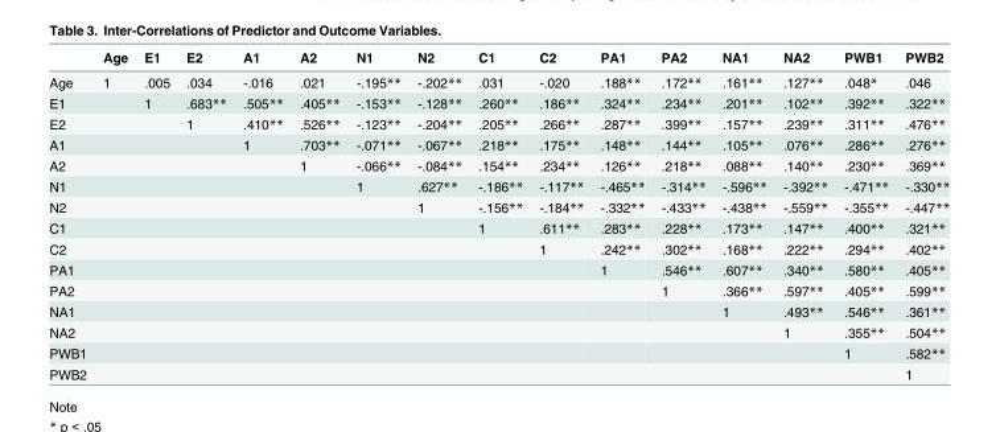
<table><thead><tr><td></td><td>Age</td><td>E1</td><td>E2</td><td>A1</td><td>A2</td><td>N1</td><td>N2</td><td>C1</td><td>C2</td><td>PA1</td><td>PA2</td><td>NA1</td><td>NA2</td><td>PWB1</td><td>PWB2</td></tr></thead><tbody><tr><td>Age</td><td>1</td><td>.005</td><td>.034</td><td>-.016</td><td>.021</td><td>-.195**</td><td>-.202**</td><td>.031</td><td>-.020</td><td>.188**</td><td>.172**</td><td>.161**</td><td>.127**</td><td>.048*</td><td>.046</td></tr><tr><td>E1</td><td></td><td>1</td><td>.683**</td><td>.505**</td><td>.405**</td><td>-.153**</td><td>-.128**</td><td>.260**</td><td>.186**</td><td>.324**</td><td>.234**</td><td>.201**</td><td>.102**</td><td>.392**</td><td>.322**</td></tr><tr><td>E2</td><td></td><td></td><td>1</td><td>.410**</td><td>.526**</td><td>-.123**</td><td>-.204**</td><td>.205**</td><td>.266**</td><td>.287**</td><td>.399**</td><td>.157**</td><td>.239**</td><td>.311**</td><td>.476**</td></tr><tr><td>A1</td><td></td><td></td><td></td><td>1</td><td>.703**</td><td>-.071**</td><td>-.067**</td><td>.218**</td><td>.175**</td><td>.148**</td><td>.144**</td><td>.105**</td><td>.076**</td><td>.286**</td><td>.276**</td></tr><tr><td>A2</td><td></td><td></td><td></td><td></td><td>1</td><td>-.066**</td><td>-.084**</td><td>.154**</td><td>.234**</td><td>.126**</td><td>.218**</td><td>.088**</td><td>.140**</td><td>.230**</td><td>.369**</td></tr><tr><td>N1</td><td></td><td></td><td></td><td></td><td></td><td>1</td><td>.627**</td><td>-.186**</td><td>-.117**</td><td>-.465**</td><td>-.314**</td><td>-.596**</td><td>-.392**</td><td>-.471**</td><td>-.330**</td></tr><tr><td>N2</td><td></td><td></td><td></td><td></td><td></td><td></td><td>1</td><td>-.156**</td><td>-.184**</td><td>-.332**</td><td>-.433**</td><td>-.438**</td><td>-.559**</td><td>-.355**</td><td>-.447**</td></tr><tr><td>C1</td><td></td><td></td><td></td><td></td><td></td><td></td><td></td><td>1</td><td>.611**</td><td>.283**</td><td>.228**</td><td>.173**</td><td>.147**</td><td>.400**</td><td>.321**</td></tr><tr><td>C2</td><td></td><td></td><td></td><td></td><td></td><td></td><td></td><td></td><td>1</td><td>.242**</td><td>.302**</td><td>.168**</td><td>.222**</td><td>.294**</td><td>.402**</td></tr><tr><td>PA1</td><td></td><td></td><td></td><td></td><td></td><td></td><td></td><td></td><td></td><td>1</td><td>.546**</td><td>.607**</td><td>.340**</td><td>.580**</td><td>.405**</td></tr><tr><td>PA2</td><td></td><td></td><td></td><td></td><td></td><td></td><td></td><td></td><td></td><td></td><td>1</td><td>.366**</td><td>.597**</td><td>.405**</td><td>.599**</td></tr><tr><td>NA1</td><td></td><td></td><td></td><td></td><td></td><td></td><td></td><td></td><td></td><td></td><td></td><td>1</td><td>.493**</td><td>.546**</td><td>.361**</td></tr><tr><td>NA2</td><td></td><td></td><td></td><td></td><td></td><td></td><td></td><td></td><td></td><td></td><td></td><td></td><td>1</td><td>.355**</td><td>.504**</td></tr><tr><td>PWB1</td><td></td><td></td><td></td><td></td><td></td><td></td><td></td><td></td><td></td><td></td><td></td><td></td><td></td><td>1</td><td>.582**</td></tr><tr><td>PWB2</td><td></td><td></td><td></td><td></td><td></td><td></td><td></td><td></td><td></td><td></td><td></td><td></td><td></td><td></td><td>1</td></tr></tbody></table>